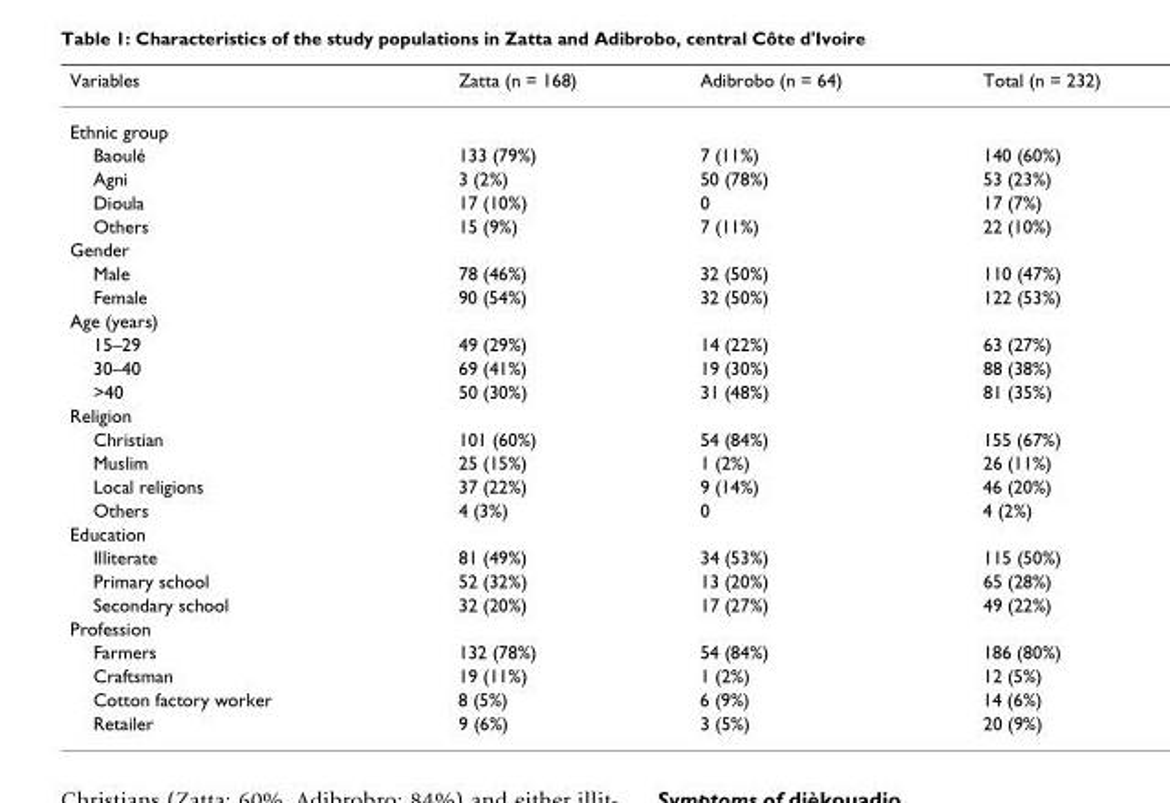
<table><thead><tr><td>Variables</td><td>Zatta (n = 168)</td><td>Adibrobo (n = 64)</td><td>Total (n = 232)</td></tr></thead><tbody><tr><td colspan="4">Ethnic group</td></tr><tr><td>Baoulé</td><td>133 (79%)</td><td>7 (11%)</td><td>140 (60%)</td></tr><tr><td>Agni</td><td>3 (2%)</td><td>50 (78%)</td><td>53 (23%)</td></tr><tr><td>Dioula</td><td>17 (10%)</td><td>0</td><td>17 (7%)</td></tr><tr><td>Others</td><td>15 (9%)</td><td>7 (11%)</td><td>22 (10%)</td></tr><tr><td colspan="4">Gender</td></tr><tr><td>Male</td><td>78 (46%)</td><td>32 (50%)</td><td>110 (47%)</td></tr><tr><td>Female</td><td>90 (54%)</td><td>32 (50%)</td><td>122 (53%)</td></tr><tr><td colspan="4">Age (years)</td></tr><tr><td>15–29</td><td>49 (29%)</td><td>14 (22%)</td><td>63 (27%)</td></tr><tr><td>30–40</td><td>69 (41%)</td><td>19 (30%)</td><td>88 (38%)</td></tr><tr><td>&gt;40</td><td>50 (30%)</td><td>31 (48%)</td><td>81 (35%)</td></tr><tr><td colspan="4">Religion</td></tr><tr><td>Christian</td><td>101 (60%)</td><td>54 (84%)</td><td>155 (67%)</td></tr><tr><td>Muslim</td><td>25 (15%)</td><td>1 (2%)</td><td>26 (11%)</td></tr><tr><td>Local religions</td><td>37 (22%)</td><td>9 (14%)</td><td>46 (20%)</td></tr><tr><td>Others</td><td>4 (3%)</td><td>0</td><td>4 (2%)</td></tr><tr><td colspan="4">Education</td></tr><tr><td>Illiterate</td><td>81 (49%)</td><td>34 (53%)</td><td>115 (50%)</td></tr><tr><td>Primary school</td><td>52 (32%)</td><td>13 (20%)</td><td>65 (28%)</td></tr><tr><td>Secondary school</td><td>32 (20%)</td><td>17 (27%)</td><td>49 (22%)</td></tr><tr><td colspan="4">Profession</td></tr><tr><td>Farmers</td><td>132 (78%)</td><td>54 (84%)</td><td>186 (80%)</td></tr><tr><td>Craftsman</td><td>19 (11%)</td><td>1 (2%)</td><td>12 (5%)</td></tr><tr><td>Cotton factory worker</td><td>8 (5%)</td><td>6 (9%)</td><td>14 (6%)</td></tr><tr><td>Retailer</td><td>9 (6%)</td><td>3 (5%)</td><td>20 (9%)</td></tr></tbody></table>